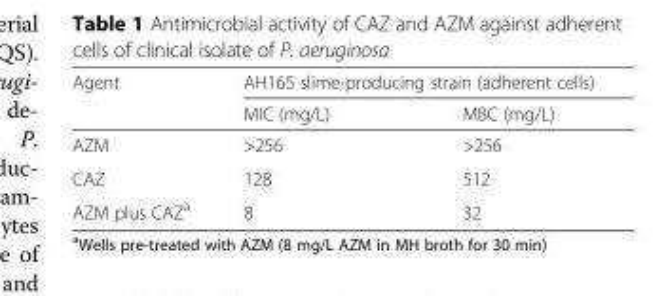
<table><thead><tr><td rowspan="2">Agent</td><td colspan="2">AH165 slime-producing strain (adherent cells)</td></tr><tr><td>MIC (mg/L)</td><td>MBC (mg/L)</td></tr></thead><tbody><tr><td>AZM</td><td>&gt;256</td><td>&gt;256</td></tr><tr><td>CAZ</td><td>128</td><td>512</td></tr><tr><td>AZM plus CAZ<sup>a</sup></td><td>8</td><td>32</td></tr></tbody></table>